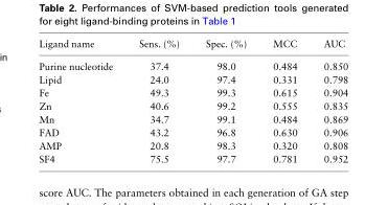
<table><thead><tr><td>Ligand name</td><td>Sens. (%)</td><td>Spec. (%)</td><td>MCC</td><td>AUC</td></tr></thead><tbody><tr><td>Purine nucleotide</td><td>37.4</td><td>98.0</td><td>0.484</td><td>0.850</td></tr><tr><td>Lipid</td><td>24.0</td><td>97.4</td><td>0.331</td><td>0.798</td></tr><tr><td>Fe</td><td>49.3</td><td>99.3</td><td>0.615</td><td>0.904</td></tr><tr><td>Zn</td><td>40.6</td><td>99.2</td><td>0.555</td><td>0.835</td></tr><tr><td>Mn</td><td>34.7</td><td>99.1</td><td>0.484</td><td>0.869</td></tr><tr><td>FAD</td><td>43.2</td><td>96.8</td><td>0.630</td><td>0.906</td></tr><tr><td>AMP</td><td>20.8</td><td>98.3</td><td>0.320</td><td>0.808</td></tr><tr><td>SF4</td><td>75.5</td><td>97.7</td><td>0.781</td><td>0.952</td></tr></tbody></table>